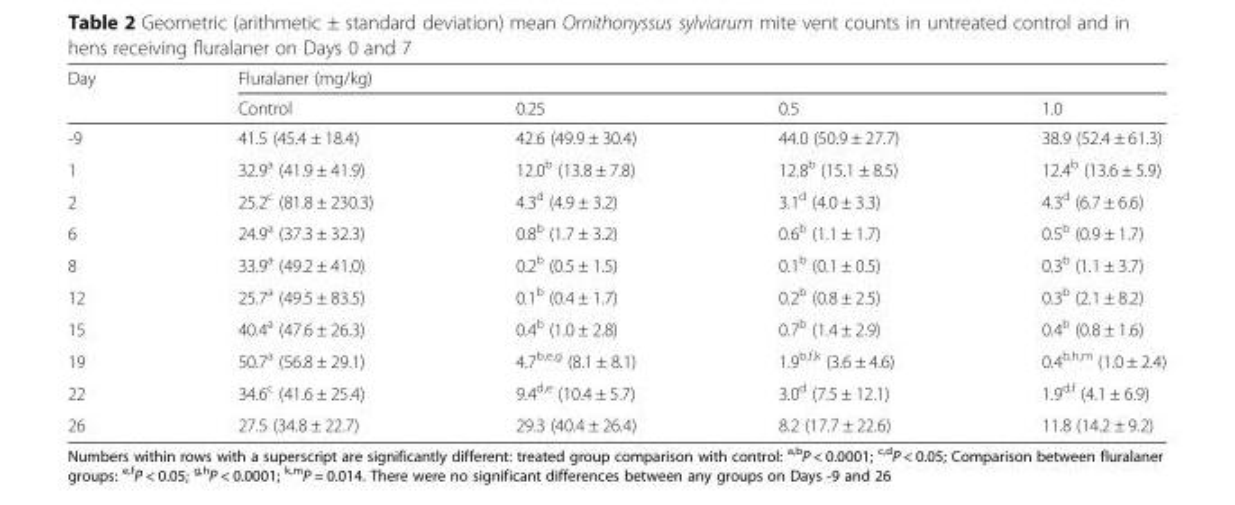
<table><thead><tr><td rowspan="2">Day</td><td colspan="4">Fluralaner (mg/kg)</td></tr><tr><td>Control</td><td>0.25</td><td>0.5</td><td>1.0</td></tr></thead><tbody><tr><td>-9</td><td>41.5 (45.4 ± 18.4)</td><td>42.6 (49.9 ± 30.4)</td><td>44.0 (50.9 ± 27.7)</td><td>38.9 (52.4 ± 61.3)</td></tr><tr><td>1</td><td>32.9<sup>a</sup> (41.9 ± 41.9)</td><td>12.0<sup>b</sup> (13.8 ± 7.8)</td><td>12.8<sup>b</sup> (15.1 ± 8.5)</td><td>12.4<sup>b</sup> (13.6 ± 5.9)</td></tr><tr><td>2</td><td>25.2<sup>c</sup> (81.8 ± 230.3)</td><td>4.3<sup>d</sup> (4.9 ± 3.2)</td><td>3.1<sup>d</sup> (4.0 ± 3.3)</td><td>4.3<sup>d</sup> (6.7 ± 6.6)</td></tr><tr><td>6</td><td>24.9<sup>a</sup> (37.3 ± 32.3)</td><td>0.8<sup>b</sup> (1.7 ± 3.2)</td><td>0.6<sup>b</sup> (1.1 ± 1.7)</td><td>0.5<sup>b</sup> (0.9 ± 1.7)</td></tr><tr><td>8</td><td>33.9<sup>a</sup> (49.2 ± 41.0)</td><td>0.2<sup>b</sup> (0.5 ± 1.5)</td><td>0.1<sup>b</sup> (0.1 ± 0.5)</td><td>0.3<sup>b</sup> (1.1 ± 3.7)</td></tr><tr><td>12</td><td>25.7<sup>a</sup> (49.5 ± 83.5)</td><td>0.1<sup>b</sup> (0.4 ± 1.7)</td><td>0.2<sup>b</sup> (0.8 ± 2.5)</td><td>0.3<sup>b</sup> (2.1 ± 8.2)</td></tr><tr><td>15</td><td>40.4<sup>a</sup> (47.6 ± 26.3)</td><td>0.4<sup>b</sup> (1.0 ± 2.8)</td><td>0.7<sup>b</sup> (1.4 ± 2.9)</td><td>0.4<sup>b</sup> (0.8 ± 1.6)</td></tr><tr><td>19</td><td>50.7<sup>a</sup> (56.8 ± 29.1)</td><td>4.7<sup>b,e,g</sup> (8.1 ± 8.1)</td><td>1.9<sup>b,f,k</sup> (3.6 ± 4.6)</td><td>0.4<sup>b,h,m</sup> (1.0 ± 2.4)</td></tr><tr><td>22</td><td>34.6<sup>c</sup> (41.6 ± 25.4)</td><td>9.4<sup>d,e</sup> (10.4 ± 5.7)</td><td>3.0<sup>d</sup> (7.5 ± 12.1)</td><td>1.9<sup>d,f</sup> (4.1 ± 6.9)</td></tr><tr><td>26</td><td>27.5 (34.8 ± 22.7)</td><td>29.3 (40.4 ± 26.4)</td><td>8.2 (17.7 ± 22.6)</td><td>11.8 (14.2 ± 9.2)</td></tr></tbody></table>